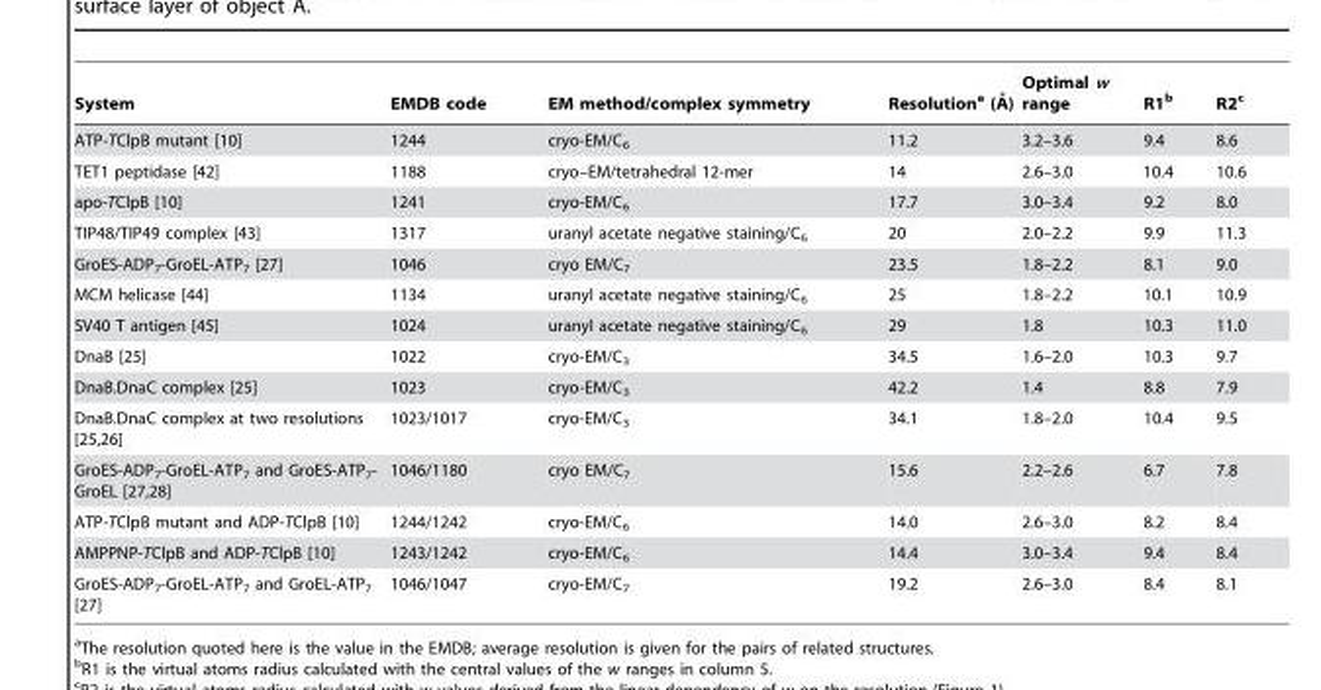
<table><thead><tr><td>System</td><td>EMDB code</td><td>EM method/complex symmetry</td><td>Resolutiona (A˚ )</td><td>Optimal w range</td><td>R1<sup>b</sup></td><td>R2<sup>c</sup></td></tr></thead><tbody><tr><td>ATP-TClpB mutant [10]</td><td>1244</td><td>cryo-EM/C<sub>6</sub></td><td>11.2</td><td>3.2–3.6</td><td>9.4</td><td>8.6</td></tr><tr><td>TET1 peptidase [42]</td><td>1188</td><td>cryo–EM/tetrahedral 12-mer</td><td>14</td><td>2.6–3.0</td><td>10.4</td><td>10.6</td></tr><tr><td>apo-TClpB [10]</td><td>1241</td><td>cryo-EM/C<sub>6</sub></td><td>17.7</td><td>3.0–3.4</td><td>9.2</td><td>8.0</td></tr><tr><td>TIP48/TIP49 complex [43]</td><td>1317</td><td>uranyl acetate negative staining/C<sub>6</sub></td><td>20</td><td>2.0–2.2</td><td>9.9</td><td>11.3</td></tr><tr><td>GroES-ADP<sub>7</sub>-GroEL-ATP<sub>7</sub> [27]</td><td>1046</td><td>cryo EM/C<sub>7</sub></td><td>23.5</td><td>1.8–2.2</td><td>8.1</td><td>9.0</td></tr><tr><td>MCM helicase [44]</td><td>1134</td><td>uranyl acetate negative staining/C<sub>6</sub></td><td>25</td><td>1.8–2.2</td><td>10.1</td><td>10.9</td></tr><tr><td>SV40 T antigen [45]</td><td>1024</td><td>uranyl acetate negative staining/C<sub>6</sub></td><td>29</td><td>1.8</td><td>10.3</td><td>11.0</td></tr><tr><td>DnaB [25]</td><td>1022</td><td>cryo-EM/C<sub>3</sub></td><td>34.5</td><td>1.6–2.0</td><td>10.3</td><td>9.7</td></tr><tr><td>DnaB.DnaC complex [25]</td><td>1023</td><td>cryo-EM/C<sub>3</sub></td><td>42.2</td><td>1.4</td><td>8.8</td><td>7.9</td></tr><tr><td>DnaB.DnaC complex at two resolutions [25,26]</td><td>1023/1017</td><td>cryo-EM/C<sub>3</sub></td><td>34.1</td><td>1.8–2.0</td><td>10.4</td><td>9.5</td></tr><tr><td>GroES-ADP7-GroEL-ATP7 and GroES-ATP7- GroEL [27,28]</td><td>1046/1180</td><td>cryo EM/C<sub>7</sub></td><td>15.6</td><td>2.2–2.6</td><td>6.7</td><td>7.8</td></tr><tr><td>ATP-TClpB mutant and ADP-TClpB [10]</td><td>1244/1242</td><td>cryo-EM/C<sub>6</sub></td><td>14.0</td><td>2.6–3.0</td><td>8.2</td><td>8.4</td></tr><tr><td>AMPPNP-TClpB and ADP-TClpB [10]</td><td>1243/1242</td><td>cryo-EM/C<sub>6</sub></td><td>14.4</td><td>3.0–3.4</td><td>9.4</td><td>8.4</td></tr><tr><td>GroES-ADP<sub>7</sub>-GroEL-ATP<sub>7</sub> and GroEL-ATP<sub>7</sub> [27]</td><td>1046/1047</td><td>cryo-EM/C<sub>7</sub></td><td>19.2</td><td>2.6–3.0</td><td>8.4</td><td>8.1</td></tr></tbody></table>